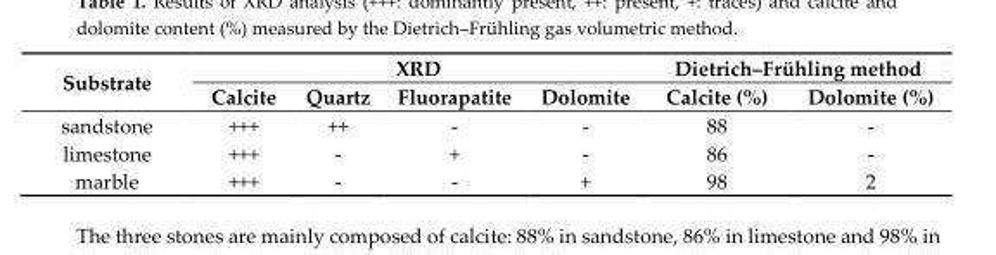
<table><thead><tr><td rowspan="2">Substrate</td><td colspan="4">XRD</td><td colspan="2">Dietrich–Frühling method</td></tr><tr><td>Calcite</td><td>Quartz</td><td>Fluorapatite</td><td>Dolomite</td><td>Calcite (%)</td><td>Dolomite (%)</td></tr></thead><tbody><tr><td>sandstone</td><td>+++</td><td>++</td><td>-</td><td>-</td><td>88</td><td>-</td></tr><tr><td>limestone</td><td>+++</td><td>-</td><td>+</td><td>-</td><td>86</td><td>-</td></tr><tr><td>marble</td><td>+++</td><td>-</td><td>-</td><td>+</td><td>98</td><td>2</td></tr></tbody></table>